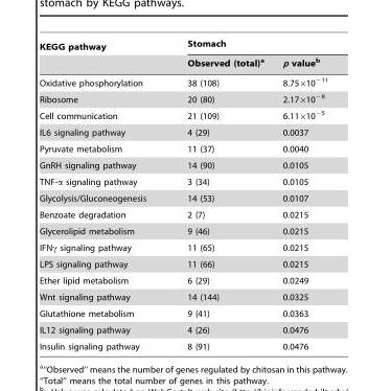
<table><thead><tr><td rowspan="2">KEGG pathway</td><td colspan="2">Stomach</td></tr><tr><td>Observed (total)<sup>a</sup></td><td>p value<sup>b</sup></td></tr></thead><tbody><tr><td>Oxidative phosphorylation</td><td>38 (108)</td><td>8.75×10<sup>−11</sup></td></tr><tr><td>Ribosome</td><td>20 (80)</td><td>2.17×10<sup>−8</sup></td></tr><tr><td>Cell communication</td><td>21 (109)</td><td>6.11×10<sup>−5</sup></td></tr><tr><td>IL6 signaling pathway</td><td>4 (29)</td><td>0.0037</td></tr><tr><td>Pyruvate metabolism</td><td>11 (37)</td><td>0.0040</td></tr><tr><td>GnRH signaling pathway</td><td>14 (90)</td><td>0.0105</td></tr><tr><td>TNF-α signaling pathway</td><td>3 (34)</td><td>0.0105</td></tr><tr><td>Glycolysis/Gluconeogenesis</td><td>14 (53)</td><td>0.0107</td></tr><tr><td>Benzoate degradation</td><td>2 (7)</td><td>0.0215</td></tr><tr><td>Glycerolipid metabolism</td><td>9 (46)</td><td>0.0215</td></tr><tr><td>IFNγ signaling pathway</td><td>11 (65)</td><td>0.0215</td></tr><tr><td>LPS signaling pathway</td><td>11 (66)</td><td>0.0215</td></tr><tr><td>Ether lipid metabolism</td><td>6 (29)</td><td>0.0249</td></tr><tr><td>Wnt signaling pathway</td><td>14 (144)</td><td>0.0325</td></tr><tr><td>Glutathione metabolism</td><td>9 (41)</td><td>0.0363</td></tr><tr><td>IL12 signaling pathway</td><td>4 (26)</td><td>0.0476</td></tr><tr><td>Insulin signaling pathway</td><td>8 (91)</td><td>0.0476</td></tr></tbody></table>